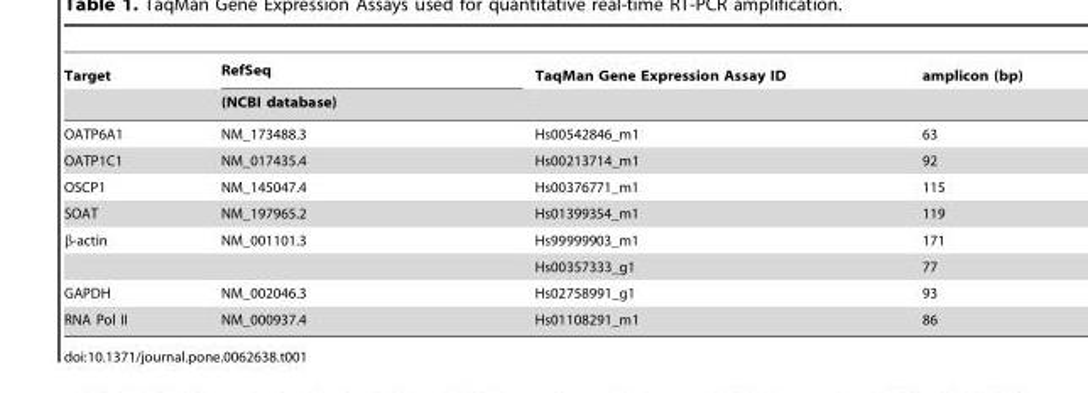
<table><thead><tr><td rowspan="2">Target</td><td rowspan="2">RefSeq (NCBI database)</td><td rowspan="2">TaqMan Gene Expression Assay ID</td><td rowspan="2">amplicon (bp)</td></tr><tr></tr></thead><tbody><tr><td>OATP6A1</td><td>NM_173488.3</td><td>Hs00542846_m1</td><td>63</td></tr><tr><td>OATP1C1</td><td>NM_017435.4</td><td>Hs00213714_m1</td><td>92</td></tr><tr><td>OSCP1</td><td>NM_145047.4</td><td>Hs00376771_m1</td><td>115</td></tr><tr><td>SOAT</td><td>NM_197965.2</td><td>Hs01399354_m1</td><td>119</td></tr><tr><td rowspan="2">β-actin</td><td>NM_001101.3</td><td>Hs99999903_m1</td><td>171</td></tr><tr><td></td><td>Hs00357333_g1</td><td>77</td></tr><tr><td>GAPDH</td><td>NM_002046.3</td><td>Hs02758991_g1</td><td>93</td></tr><tr><td>RNA Pol II</td><td>NM_000937.4</td><td>Hs01108291_m1</td><td>86</td></tr></tbody></table>